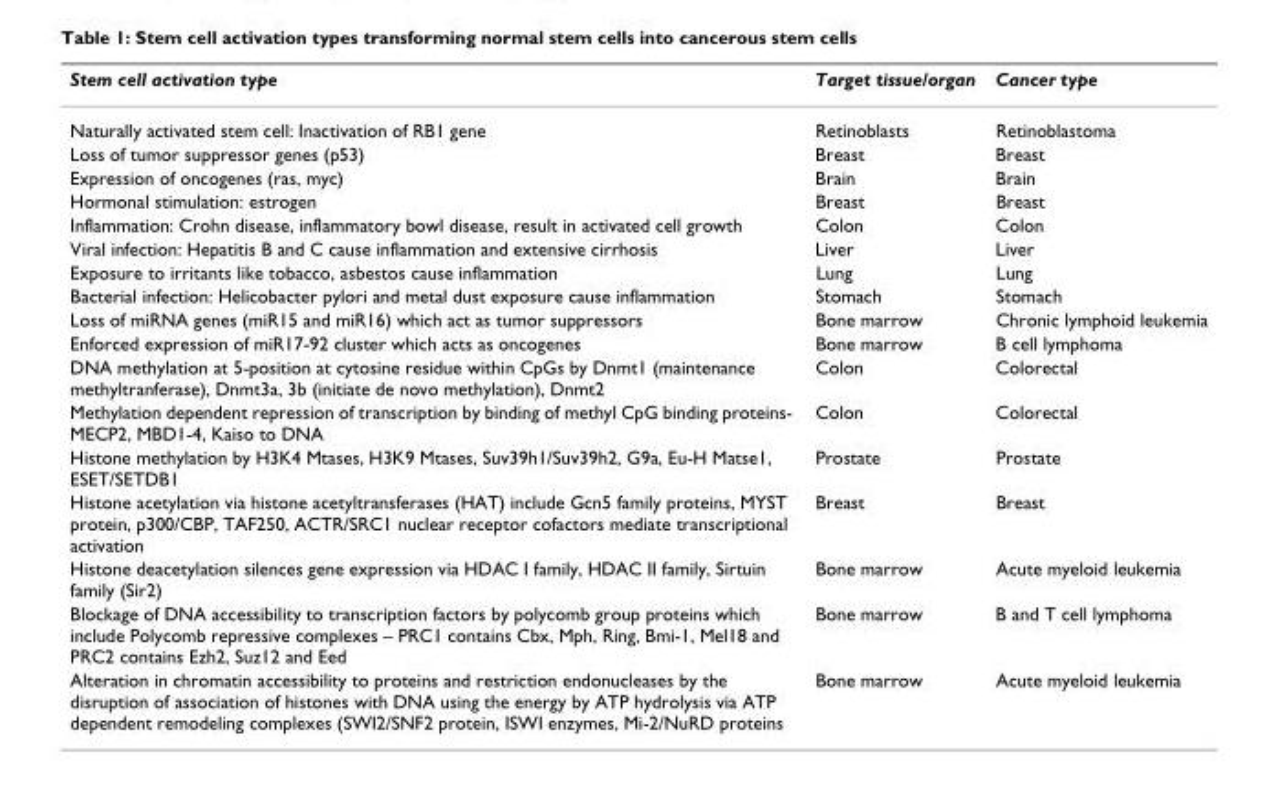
<table><thead><tr><td>Stem cell activation type</td><td>Target tissue/organ</td><td>Cancer type</td></tr></thead><tbody><tr><td>Naturally activated stem cell: Inactivation of RB1 gene</td><td>Retinoblasts</td><td>Retinoblastoma</td></tr><tr><td>Loss of tumor suppressor genes (p53)</td><td>Breast</td><td>Breast</td></tr><tr><td>Expression of oncogenes (ras, myc)</td><td>Brain</td><td>Brain</td></tr><tr><td>Hormonal stimulation: estrogen</td><td>Breast</td><td>Breast</td></tr><tr><td>Inflammation: Crohn disease, inflammatory bowl disease, result in activated cell growth</td><td>Colon</td><td>Colon</td></tr><tr><td>Viral infection: Hepatitis B and C cause inflammation and extensive cirrhosis</td><td>Liver</td><td>Liver</td></tr><tr><td>Exposure to irritants like tobacco, asbestos cause inflammation</td><td>Lung</td><td>Lung</td></tr><tr><td>Bacterial infection: Helicobacter pylori and metal dust exposure cause inflammation</td><td>Stomach</td><td>Stomach</td></tr><tr><td>Loss of miRNA genes (miR15 and miR16) which act as tumor suppressors</td><td>Bone marrow</td><td>Chronic lymphoid leukemia</td></tr><tr><td>Enforced expression of miR17-92 cluster which acts as oncogenes</td><td>Bone marrow</td><td>B cell lymphoma</td></tr><tr><td>DNA methylation at 5-position at cytosine residue within CpGs by Dnmt1 (maintenance methyltranferase), Dnmt3a, 3b (initiate de novo methylation), Dnmt2</td><td>Colon</td><td>Colorectal</td></tr><tr><td>Methylation dependent repression of transcription by binding of methyl CpG binding proteins- MECP2, MBD1-4, Kaiso to DNA</td><td>Colon</td><td>Colorectal</td></tr><tr><td>Histone methylation by H3K4 Mtases, H3K9 Mtases, Suv39h1/Suv39h2, G9a, Eu-H Matse1, ESET/SETDB1</td><td>Prostate</td><td>Prostate</td></tr><tr><td>Histone acetylation via histone acetyltransferases (HAT) include Gcn5 family proteins, MYST protein, p300/CBP, TAF250, ACTR/SRC1 nuclear receptor cofactors mediate transcriptional activation</td><td>Breast</td><td>Breast</td></tr><tr><td>Histone deacetylation silences gene expression via HDAC I family, HDAC II family, Sirtuin family (Sir2)</td><td>Bone marrow</td><td>Acute myeloid leukemia</td></tr><tr><td>Blockage of DNA accessibility to transcription factors by polycomb group proteins which include Polycomb repressive complexes – PRC1 contains Cbx, Mph, Ring, Bmi-1, Mel18 and PRC2 contains Ezh2, Suz12 and Eed</td><td>Bone marrow</td><td>B and T cell lymphoma</td></tr><tr><td>Alteration in chromatin accessibility to proteins and restriction endonucleases by the disruption of association of histones with DNA using the energy by ATP hydrolysis via ATP dependent remodeling complexes (SWI2/SNF2 protein, ISWI enzymes, Mi-2/NuRD proteins</td><td>Bone marrow</td><td>Acute myeloid leukemia</td></tr></tbody></table>